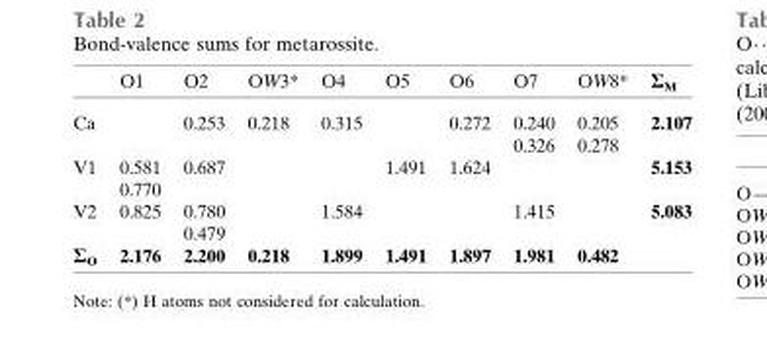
<table><thead><tr><td></td><td>O1</td><td>O2</td><td>OW3*</td><td>O4</td><td>O5</td><td>O6</td><td>O7</td><td>OW8*</td><td>Σ<sub>M</sub></td></tr></thead><tbody><tr><td rowspan="2">Ca</td><td></td><td>0.253</td><td>0.218</td><td>0.315</td><td></td><td>0.272</td><td>0.240</td><td>0.205</td><td>2.107</td></tr><tr><td></td><td></td><td></td><td></td><td></td><td></td><td>0.326</td><td>0.278</td><td></td></tr><tr><td rowspan="2">V1</td><td>0.581</td><td>0.687</td><td></td><td></td><td>1.491</td><td>1.624</td><td></td><td></td><td>5.153</td></tr><tr><td>0.770</td><td></td><td></td><td></td><td></td><td></td><td></td><td></td><td></td></tr><tr><td rowspan="2">V2</td><td>0.825</td><td>0.780</td><td></td><td>1.584</td><td></td><td></td><td>1.415</td><td></td><td>5.083</td></tr><tr><td></td><td>0.479</td><td></td><td></td><td></td><td></td><td></td><td></td><td></td></tr><tr><td>Σ<sub>O</sub></td><td>2.176</td><td>2.200</td><td>0.218</td><td>1.899</td><td>1.491</td><td>1.897</td><td>1.981</td><td>0.482</td><td></td></tr></tbody></table>